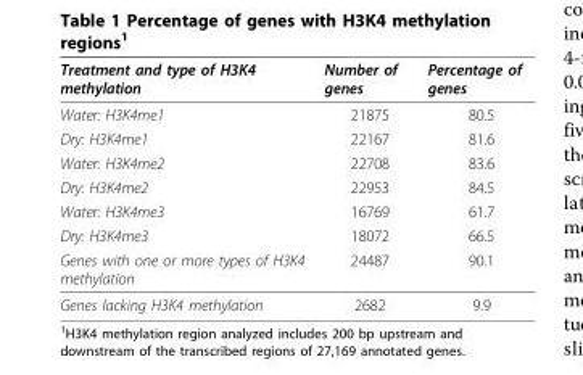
<table><thead><tr><td>Treatment and type of H3K4 methylation</td><td>Number of genes</td><td>Percentage of genes</td></tr></thead><tbody><tr><td>Water: H3K4me1</td><td>21875</td><td>80.5</td></tr><tr><td>Dry: H3K4me1</td><td>22167</td><td>81.6</td></tr><tr><td>Water: H3K4me2</td><td>22708</td><td>83.6</td></tr><tr><td>Dry: H3K4me2</td><td>22953</td><td>84.5</td></tr><tr><td>Water: H3K4me3</td><td>16769</td><td>61.7</td></tr><tr><td>Dry: H3K4me3</td><td>18072</td><td>66.5</td></tr><tr><td>Genes with one or more types of H3K4 methylation</td><td>24487</td><td>90.1</td></tr><tr><td>Genes lacking H3K4 methylation</td><td>2682</td><td>9.9</td></tr></tbody></table>